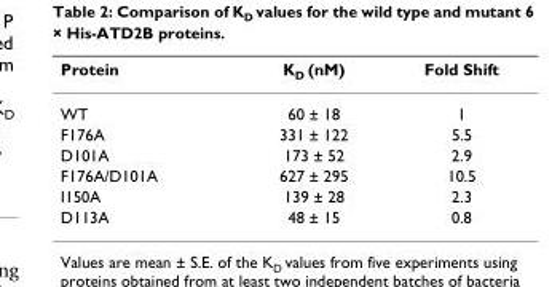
<table><thead><tr><td>Protein</td><td>K<sub>D</sub> (nM)</td><td>Fold Shift</td></tr></thead><tbody><tr><td>WT</td><td>60 ± 18</td><td>1</td></tr><tr><td>F176A</td><td>331 ± 122</td><td>5.5</td></tr><tr><td>D101A</td><td>173 ± 52</td><td>2.9</td></tr><tr><td>F176A/D101A</td><td>627 ± 295</td><td>10.5</td></tr><tr><td>I150A</td><td>139 ± 28</td><td>2.3</td></tr><tr><td>D113A</td><td>48 ± 15</td><td>0.8</td></tr></tbody></table>